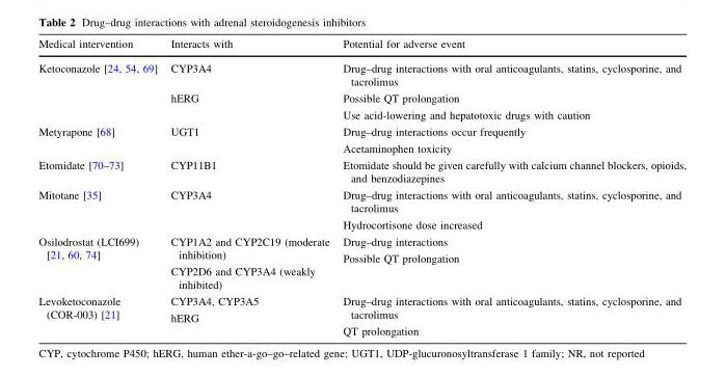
<table><thead><tr><td>Medical intervention</td><td>Interacts with</td><td>Potential for adverse event</td></tr></thead><tbody><tr><td rowspan="3">Ketoconazole [24, 54, 69]</td><td>CYP3A4</td><td>Drug–drug interactions with oral anticoagulants, statins, cyclosporine, and tacrolimus</td></tr><tr><td>hERG</td><td>Possible QT prolongation</td></tr><tr><td></td><td>Use acid-lowering and hepatotoxic drugs with caution</td></tr><tr><td rowspan="2">Metyrapone [68]</td><td rowspan="2">UGT1</td><td>Drug–drug interactions occur frequently</td></tr><tr><td>Acetaminophen toxicity</td></tr><tr><td>Etomidate [70–73]</td><td>CYP11B1</td><td>Etomidate should be given carefully with calcium channel blockers, opioids, and benzodiazepines</td></tr><tr><td rowspan="2">Mitotane [35]</td><td rowspan="2">CYP3A4</td><td>Drug–drug interactions with oral anticoagulants, statins, cyclosporine, and tacrolimus</td></tr><tr><td>Hydrocortisone dose increased</td></tr><tr><td>Osilodrostat (LCI699) [21, 60, 74]</td><td>CYP1A2 and CYP2C19 (moderate inhibition) CYP2D6 and CYP3A4 (weakly inhibited)</td><td>Drug–drug interactions Possible QT prolongation</td></tr><tr><td rowspan="2">Levoketoconazole (COR-003) [21]</td><td rowspan="2">CYP3A4, CYP3A5 hERG</td><td>Drug–drug interactions with oral anticoagulants, statins, cyclosporine, and tacrolimus</td></tr><tr><td>QT prolongation</td></tr></tbody></table>